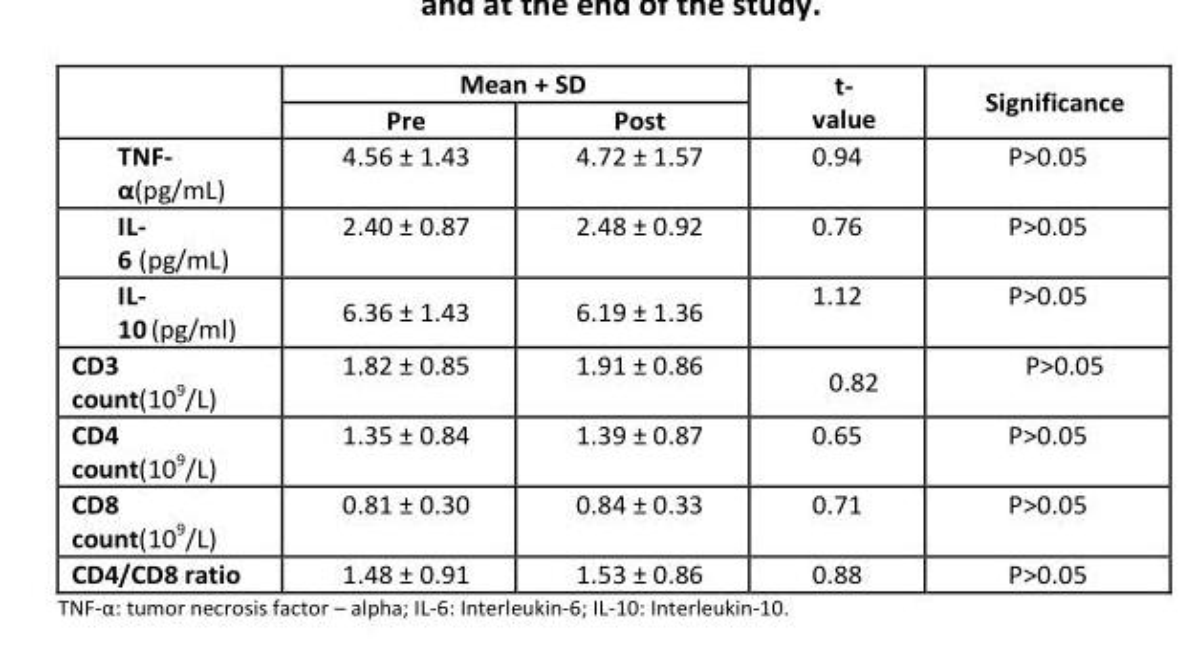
<table><thead><tr><td rowspan="2"></td><td colspan="2">Mean + SD</td><td rowspan="2">t- value</td><td rowspan="2">Significance</td></tr><tr><td>Pre</td><td>Post</td></tr></thead><tbody><tr><td>TNF- α(pg/mL)</td><td>4.56 ± 1.43</td><td>4.72 ± 1.57</td><td>0.94</td><td>P&gt;0.05</td></tr><tr><td>IL- 6 (pg/mL)</td><td>2.40 ± 0.87</td><td>2.48 ± 0.92</td><td>0.76</td><td>P&gt;0.05</td></tr><tr><td>IL- 10 (pg/ml)</td><td>6.36 ± 1.43</td><td>6.19 ± 1.36</td><td>1.12</td><td>P&gt;0.05</td></tr><tr><td>CD3 count(10<sup>9</sup>/L)</td><td>1.82 ± 0.85</td><td>1.91 ± 0.86</td><td>0.82</td><td>P&gt;0.05</td></tr><tr><td>CD4 count(10<sup>9</sup>/L)</td><td>1.35 ± 0.84</td><td>1.39 ± 0.87</td><td>0.65</td><td>P&gt;0.05</td></tr><tr><td>CD8 count(10<sup>9</sup>/L)</td><td>0.81 ± 0.30</td><td>0.84 ± 0.33</td><td>0.71</td><td>P&gt;0.05</td></tr><tr><td>CD4/CD8 ratio</td><td>1.48 ± 0.91</td><td>1.53 ± 0.86</td><td>0.88</td><td>P&gt;0.05</td></tr></tbody></table>